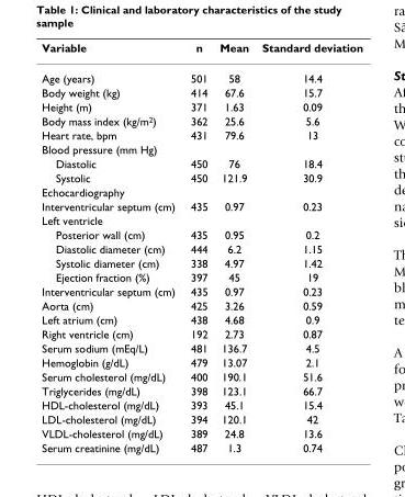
<table><thead><tr><td>Variable</td><td>n</td><td>Mean</td><td>Standard deviation</td></tr></thead><tbody><tr><td>Age (years)</td><td>501</td><td>58</td><td>14.4</td></tr><tr><td>Body weight (kg)</td><td>414</td><td>67.6</td><td>15.7</td></tr><tr><td>Height (m)</td><td>371</td><td>1.63</td><td>0.09</td></tr><tr><td>Body mass index (kg/m<sup>2</sup>)</td><td>362</td><td>25.6</td><td>5.6</td></tr><tr><td>Heart rate, bpm</td><td>431</td><td>79.6</td><td>13</td></tr><tr><td colspan="4">Blood pressure (mm Hg)</td></tr><tr><td>Diastolic</td><td>450</td><td>76</td><td>18.4</td></tr><tr><td>Systolic</td><td>450</td><td>121.9</td><td>30.9</td></tr><tr><td colspan="4">Echocardiography</td></tr><tr><td>Interventricular septum (cm)</td><td>435</td><td>0.97</td><td>0.23</td></tr><tr><td colspan="4">Left ventricle</td></tr><tr><td>Posterior wall (cm)</td><td>435</td><td>0.95</td><td>0.2</td></tr><tr><td>Diastolic diameter (cm)</td><td>444</td><td>6.2</td><td>1.15</td></tr><tr><td>Systolic diameter (cm)</td><td>338</td><td>4.97</td><td>1.42</td></tr><tr><td>Ejection fraction (%)</td><td>397</td><td>45</td><td>19</td></tr><tr><td>Interventricular septum (cm)</td><td>435</td><td>0.97</td><td>0.23</td></tr><tr><td>Aorta (cm)</td><td>425</td><td>3.26</td><td>0.59</td></tr><tr><td>Left atrium (cm)</td><td>438</td><td>4.68</td><td>0.9</td></tr><tr><td>Right ventricle (cm)</td><td>192</td><td>2.73</td><td>0.87</td></tr><tr><td>Serum sodium (mEq/L)</td><td>481</td><td>136.7</td><td>4.5</td></tr><tr><td>Hemoglobin (g/dL)</td><td>479</td><td>13.07</td><td>2.1</td></tr><tr><td>Serum cholesterol (mg/dL)</td><td>400</td><td>190.1</td><td>51.6</td></tr><tr><td>Triglycerides (mg/dL)</td><td>398</td><td>123.1</td><td>66.7</td></tr><tr><td>HDL-cholesterol (mg/dL)</td><td>393</td><td>45.1</td><td>15.4</td></tr><tr><td>LDL-cholesterol (mg/dL)</td><td>394</td><td>120.1</td><td>42</td></tr><tr><td>VLDL-cholesterol (mg/dL)</td><td>389</td><td>24.8</td><td>13.6</td></tr><tr><td>Serum creatinine (mg/dL)</td><td>487</td><td>1.3</td><td>0.74</td></tr></tbody></table>